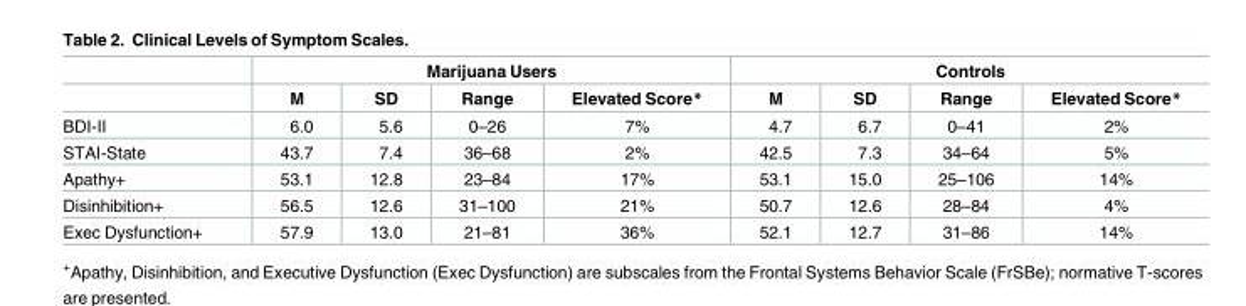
<table><thead><tr><td rowspan="2"></td><td colspan="4">Marijuana Users</td><td colspan="4">Controls</td></tr><tr><td>M</td><td>SD</td><td>Range</td><td>Elevated Score*</td><td>M</td><td>SD</td><td>Range</td><td>Elevated Score*</td></tr></thead><tbody><tr><td>BDI-II</td><td>6.0</td><td>5.6</td><td>0–26</td><td>7%</td><td>4.7</td><td>6.7</td><td>0–41</td><td>2%</td></tr><tr><td>STAI-State</td><td>43.7</td><td>7.4</td><td>36–68</td><td>2%</td><td>42.5</td><td>7.3</td><td>34–64</td><td>5%</td></tr><tr><td>Apathy+</td><td>53.1</td><td>12.8</td><td>23–84</td><td>17%</td><td>53.1</td><td>15.0</td><td>25–106</td><td>14%</td></tr><tr><td>Disinhibition+</td><td>56.5</td><td>12.6</td><td>31–100</td><td>21%</td><td>50.7</td><td>12.6</td><td>28–84</td><td>4%</td></tr><tr><td>Exec Dysfunction+</td><td>57.9</td><td>13.0</td><td>21–81</td><td>36%</td><td>52.1</td><td>12.7</td><td>31–86</td><td>14%</td></tr></tbody></table>